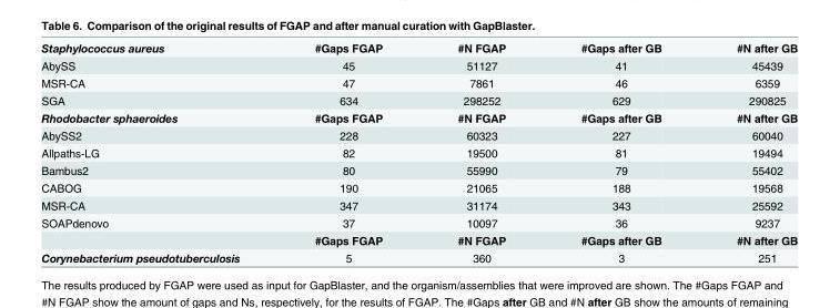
<table><tbody><tr><td>Staphylococcus aureus</td><td>#Gaps FGAP</td><td>#N FGAP</td><td>#Gaps after GB</td><td>#N after GB</td></tr><tr><td>AbySS</td><td>45</td><td>51127</td><td>41</td><td>45439</td></tr><tr><td>MSR-CA</td><td>47</td><td>7861</td><td>46</td><td>6359</td></tr><tr><td>SGA</td><td>634</td><td>298252</td><td>629</td><td>290825</td></tr><tr><td>Rhodobacter sphaeroides</td><td>#Gaps FGAP</td><td>#N FGAP</td><td>#Gaps after GB</td><td>#N after GB</td></tr><tr><td>AbySS2</td><td>228</td><td>60323</td><td>227</td><td>60040</td></tr><tr><td>Allpaths-LG</td><td>82</td><td>19500</td><td>81</td><td>19494</td></tr><tr><td>Bambus2</td><td>80</td><td>55990</td><td>79</td><td>55402</td></tr><tr><td>CABOG</td><td>190</td><td>21065</td><td>188</td><td>19568</td></tr><tr><td>MSR-CA</td><td>347</td><td>31174</td><td>343</td><td>25592</td></tr><tr><td rowspan="2">SOAPdenovo</td><td>37</td><td>10097</td><td>36</td><td>9237</td></tr><tr><td>#Gaps FGAP</td><td>#N FGAP</td><td>#Gaps after GB</td><td>#N after GB</td></tr><tr><td>Corynebacterium pseudotuberculosis</td><td>5</td><td>360</td><td>3</td><td>251</td></tr></tbody></table>